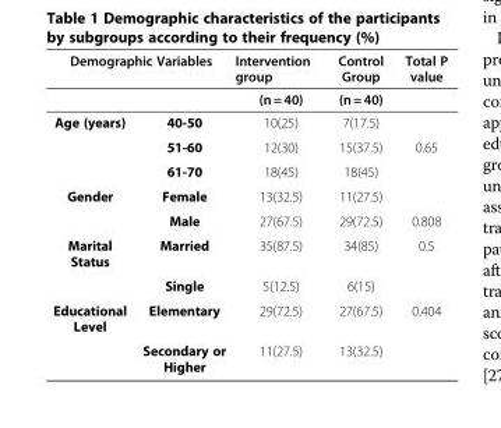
<table><thead><tr><td colspan="2">Demographic Variables</td><td rowspan="2">Intervention group (n = 40)</td><td rowspan="2">Control Group (n = 40)</td><td rowspan="2">Total P value</td></tr><tr><td></td><td></td></tr></thead><tbody><tr><td rowspan="3">Age (years)</td><td>40-50</td><td>10(25)</td><td>7(17.5)</td><td></td></tr><tr><td>51-60</td><td>12(30)</td><td>15(37.5)</td><td>0.65</td></tr><tr><td>61-70</td><td>18(45)</td><td>18(45)</td><td></td></tr><tr><td rowspan="2">Gender</td><td>Female</td><td>13(32.5)</td><td>11(27.5)</td><td></td></tr><tr><td>Male</td><td>27(67.5)</td><td>29(72.5)</td><td>0.808</td></tr><tr><td rowspan="2">Marital Status</td><td>Married</td><td>35(87.5)</td><td>34(85)</td><td>0.5</td></tr><tr><td>Single</td><td>5(12.5)</td><td>6(15)</td><td></td></tr><tr><td rowspan="2">Educational Level</td><td>Elementary</td><td>29(72.5)</td><td>27(67.5)</td><td>0.404</td></tr><tr><td>Secondary or Higher</td><td>11(27.5)</td><td>13(32.5)</td><td></td></tr></tbody></table>